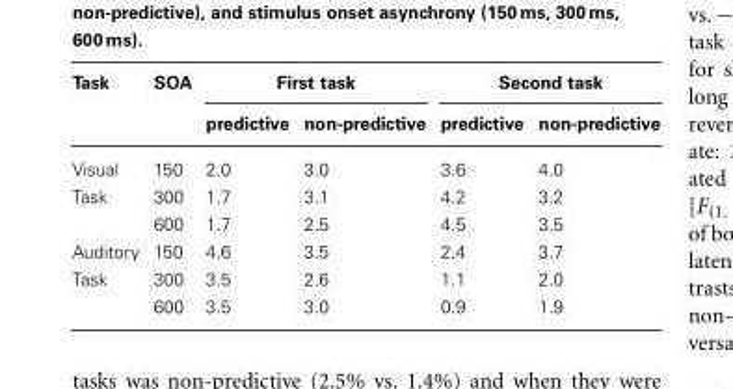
<table><thead><tr><td rowspan="2">Task</td><td rowspan="2">SOA</td><td colspan="2">First task</td><td colspan="2">Second task</td></tr><tr><td>predictive</td><td>non-predictive</td><td>predictive</td><td>non-predictive</td></tr></thead><tbody><tr><td>Visual</td><td>150</td><td>2.0</td><td>3.0</td><td>3.6</td><td>4.0</td></tr><tr><td rowspan="2">Task</td><td>300</td><td>1.7</td><td>3.1</td><td>4.2</td><td>3.2</td></tr><tr><td>600</td><td>1.7</td><td>2.5</td><td>4.5</td><td>3.5</td></tr><tr><td>Auditory</td><td>150</td><td>4.6</td><td>3.5</td><td>2.4</td><td>3.7</td></tr><tr><td rowspan="2">Task</td><td>300</td><td>3.5</td><td>2.6</td><td>1.1</td><td>2.0</td></tr><tr><td>600</td><td>3.5</td><td>3.0</td><td>0.9</td><td>1.9</td></tr></tbody></table>